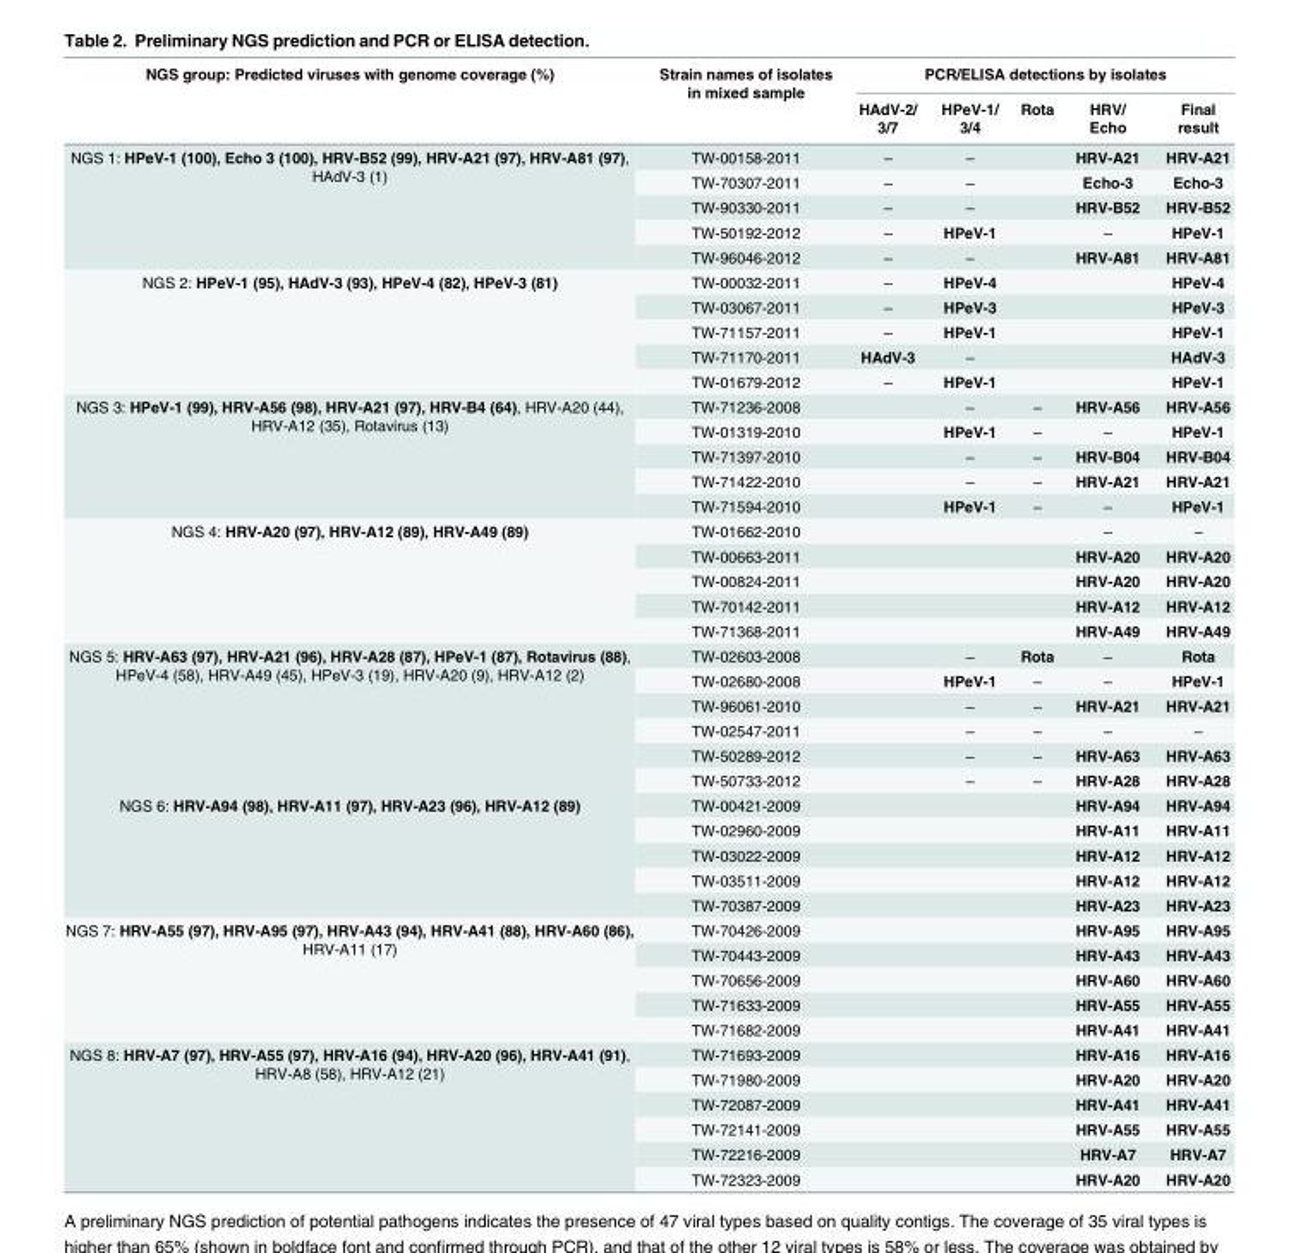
<table><thead><tr><td rowspan="2">NGS group: Predicted viruses with genome coverage (%)</td><td rowspan="2">Strain names of isolates in mixed sample</td><td colspan="5">PCR/ELISA detections by isolates</td></tr><tr><td>HAdV-2/ 3/7</td><td>HPeV-1/ 3/4</td><td>Rota</td><td>HRV/ Echo</td><td>Final result</td></tr></thead><tbody><tr><td rowspan="5">NGS 1: HPeV-1 (100), Echo 3 (100), HRV-B52 (99), HRV-A21 (97), HRV-A81 (97), HAdV-3 (1)</td><td>TW-00158-2011</td><td>–</td><td>–</td><td></td><td>HRV-A21</td><td>HRV-A21</td></tr><tr><td>TW-70307-2011</td><td>–</td><td>–</td><td></td><td>Echo-3</td><td>Echo-3</td></tr><tr><td>TW-90330-2011</td><td>–</td><td>–</td><td></td><td>HRV-B52</td><td>HRV-B52</td></tr><tr><td>TW-50192-2012</td><td>–</td><td>HPeV-1</td><td></td><td>–</td><td>HPeV-1</td></tr><tr><td>TW-96046-2012</td><td>–</td><td>–</td><td></td><td>HRV-A81</td><td>HRV-A81</td></tr><tr><td rowspan="5">NGS 2: HPeV-1 (95), HAdV-3 (93), HPeV-4 (82), HPeV-3 (81)</td><td>TW-00032-2011</td><td>–</td><td>HPeV-4</td><td></td><td></td><td>HPeV-4</td></tr><tr><td>TW-03067-2011</td><td>–</td><td>HPeV-3</td><td></td><td></td><td>HPeV-3</td></tr><tr><td>TW-71157-2011</td><td>–</td><td>HPeV-1</td><td></td><td></td><td>HPeV-1</td></tr><tr><td>TW-71170-2011</td><td>HAdV-3</td><td>–</td><td></td><td></td><td>HAdV-3</td></tr><tr><td>TW-01679-2012</td><td>–</td><td>HPeV-1</td><td></td><td></td><td>HPeV-1</td></tr><tr><td rowspan="5">NGS 3: HPeV-1 (99), HRV-A56 (98), HRV-A21 (97), HRV-B4 (64), HRV-A20 (44), HRV-A12 (35), Rotavirus (13)</td><td>TW-71236-2008</td><td></td><td>–</td><td>–</td><td>HRV-A56</td><td>HRV-A56</td></tr><tr><td>TW-01319-2010</td><td></td><td>HPeV-1</td><td>–</td><td>–</td><td>HPeV-1</td></tr><tr><td>TW-71397-2010</td><td></td><td>–</td><td>–</td><td>HRV-B04</td><td>HRV-B04</td></tr><tr><td>TW-71422-2010</td><td></td><td>–</td><td>–</td><td>HRV-A21</td><td>HRV-A21</td></tr><tr><td>TW-71594-2010</td><td></td><td>HPeV-1</td><td>–</td><td>–</td><td>HPeV-1</td></tr><tr><td rowspan="5">NGS 4: HRV-A20 (97), HRV-A12 (89), HRV-A49 (89)</td><td>TW-01662-2010</td><td></td><td></td><td></td><td>–</td><td>–</td></tr><tr><td>TW-00663-2011</td><td></td><td></td><td></td><td>HRV-A20</td><td>HRV-A20</td></tr><tr><td>TW-00824-2011</td><td></td><td></td><td></td><td>HRV-A20</td><td>HRV-A20</td></tr><tr><td>TW-70142-2011</td><td></td><td></td><td></td><td>HRV-A12</td><td>HRV-A12</td></tr><tr><td>TW-71368-2011</td><td></td><td></td><td></td><td>HRV-A49</td><td>HRV-A49</td></tr><tr><td rowspan="6">NGS 5: HRV-A63 (97), HRV-A21 (96), HRV-A28 (87), HPeV-1 (87), Rotavirus (88), HPeV-4 (58), HRV-A49 (45), HPeV-3 (19), HRV-A20 (9), HRV-A12 (2)</td><td>TW-02603-2008</td><td></td><td>–</td><td>Rota</td><td>–</td><td>Rota</td></tr><tr><td>TW-02680-2008</td><td></td><td>HPeV-1</td><td>–</td><td>–</td><td>HPeV-1</td></tr><tr><td>TW-96061-2010</td><td></td><td>–</td><td>–</td><td>HRV-A21</td><td>HRV-A21</td></tr><tr><td>TW-02547-2011</td><td></td><td>–</td><td>–</td><td>–</td><td>–</td></tr><tr><td>TW-50289-2012</td><td></td><td>–</td><td>–</td><td>HRV-A63</td><td>HRV-A63</td></tr><tr><td>TW-50733-2012</td><td></td><td>–</td><td>–</td><td>HRV-A28</td><td>HRV-A28</td></tr><tr><td rowspan="5">NGS 6: HRV-A94 (98), HRV-A11 (97), HRV-A23 (96), HRV-A12 (89)</td><td>TW-00421-2009</td><td></td><td></td><td></td><td>HRV-A94</td><td>HRV-A94</td></tr><tr><td>TW-02960-2009</td><td></td><td></td><td></td><td>HRV-A11</td><td>HRV-A11</td></tr><tr><td>TW-03022-2009</td><td></td><td></td><td></td><td>HRV-A12</td><td>HRV-A12</td></tr><tr><td>TW-03511-2009</td><td></td><td></td><td></td><td>HRV-A12</td><td>HRV-A12</td></tr><tr><td>TW-70387-2009</td><td></td><td></td><td></td><td>HRV-A23</td><td>HRV-A23</td></tr><tr><td rowspan="5">NGS 7: HRV-A55 (97), HRV-A95 (97), HRV-A43 (94), HRV-A41 (88), HRV-A60 (86), HRV-A11 (17)</td><td>TW-70426-2009</td><td></td><td></td><td></td><td>HRV-A95</td><td>HRV-A95</td></tr><tr><td>TW-70443-2009</td><td></td><td></td><td></td><td>HRV-A43</td><td>HRV-A43</td></tr><tr><td>TW-70656-2009</td><td></td><td></td><td></td><td>HRV-A60</td><td>HRV-A60</td></tr><tr><td>TW-71633-2009</td><td></td><td></td><td></td><td>HRV-A55</td><td>HRV-A55</td></tr><tr><td>TW-71682-2009</td><td></td><td></td><td></td><td>HRV-A41</td><td>HRV-A41</td></tr><tr><td rowspan="6">NGS 8: HRV-A7 (97), HRV-A55 (97), HRV-A16 (94), HRV-A20 (96), HRV-A41 (91), HRV-A8 (58), HRV-A12 (21)</td><td>TW-71693-2009</td><td></td><td></td><td></td><td>HRV-A16</td><td>HRV-A16</td></tr><tr><td>TW-71980-2009</td><td></td><td></td><td></td><td>HRV-A20</td><td>HRV-A20</td></tr><tr><td>TW-72087-2009</td><td></td><td></td><td></td><td>HRV-A41</td><td>HRV-A41</td></tr><tr><td>TW-72141-2009</td><td></td><td></td><td></td><td>HRV-A55</td><td>HRV-A55</td></tr><tr><td>TW-72216-2009</td><td></td><td></td><td></td><td>HRV-A7</td><td>HRV-A7</td></tr><tr><td>TW-72323-2009</td><td></td><td></td><td></td><td>HRV-A20</td><td>HRV-A20</td></tr></tbody></table>